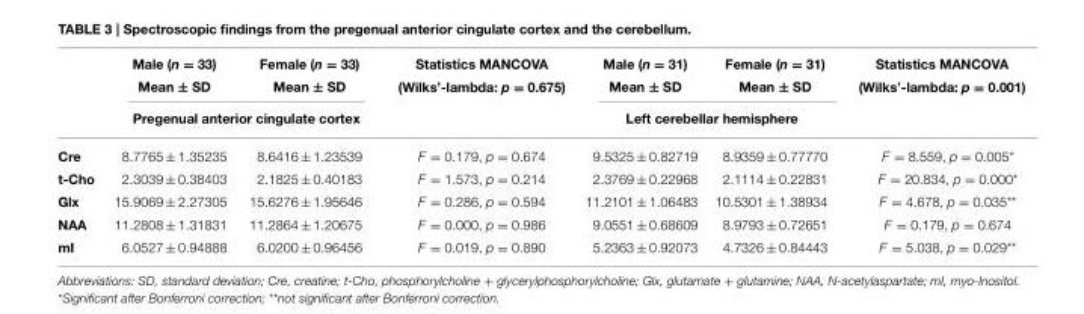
<table><thead><tr><td rowspan="3"></td><td rowspan="2">Male (n = 33) Mean ± SD</td><td rowspan="2">Female (n = 33) Mean ± SD</td><td rowspan="3">Statistics MANCOVA (Wilks’-lambda: p = 0.675)</td><td rowspan="2">Male (n = 31) Mean ± SD</td><td rowspan="2">Female (n = 31) Mean ± SD</td><td rowspan="3">Statistics MANCOVA (Wilks’-lambda: p = 0.001)</td></tr><tr></tr><tr><td colspan="2">Pregenual anterior cingulate cortex</td><td colspan="2">Left cerebellar hemisphere</td></tr></thead><tbody><tr><td>Cre</td><td>8.7765 ± 1.35235</td><td>8.6416 ± 1.23539</td><td>F = 0.179, p = 0.674</td><td>9.5325 ± 0.82719</td><td>8.9359 ± 0.77770</td><td>F = 8.559, p = 0.005*</td></tr><tr><td>t-Cho</td><td>2.3039 ± 0.38403</td><td>2.1825 ± 0.40183</td><td>F = 1.573, p = 0.214</td><td>2.3769 ± 0.22968</td><td>2.1114 ± 0.22831</td><td>F = 20.834, p = 0.000*</td></tr><tr><td>Glx</td><td>15.9069 ± 2.27305</td><td>15.6276 ± 1.95646</td><td>F = 0.286, p = 0.594</td><td>11.2101 ± 1.06483</td><td>10.5301 ± 1.38934</td><td>F = 4.678, p = 0.035**</td></tr><tr><td>NAA</td><td>11.2808 ± 1.31831</td><td>11.2864 ± 1.20675</td><td>F = 0.000, p = 0.986</td><td>9.0551 ± 0.68609</td><td>8.9793 ± 0.72651</td><td>F = 0.179, p = 0.674</td></tr><tr><td>mI</td><td>6.0527 ± 0.94888</td><td>6.0200 ± 0.96456</td><td>F = 0.019, p = 0.890</td><td>5.2363 ± 0.92073</td><td>4.7326 ± 0.84443</td><td>F = 5.038, p = 0.029**</td></tr></tbody></table>